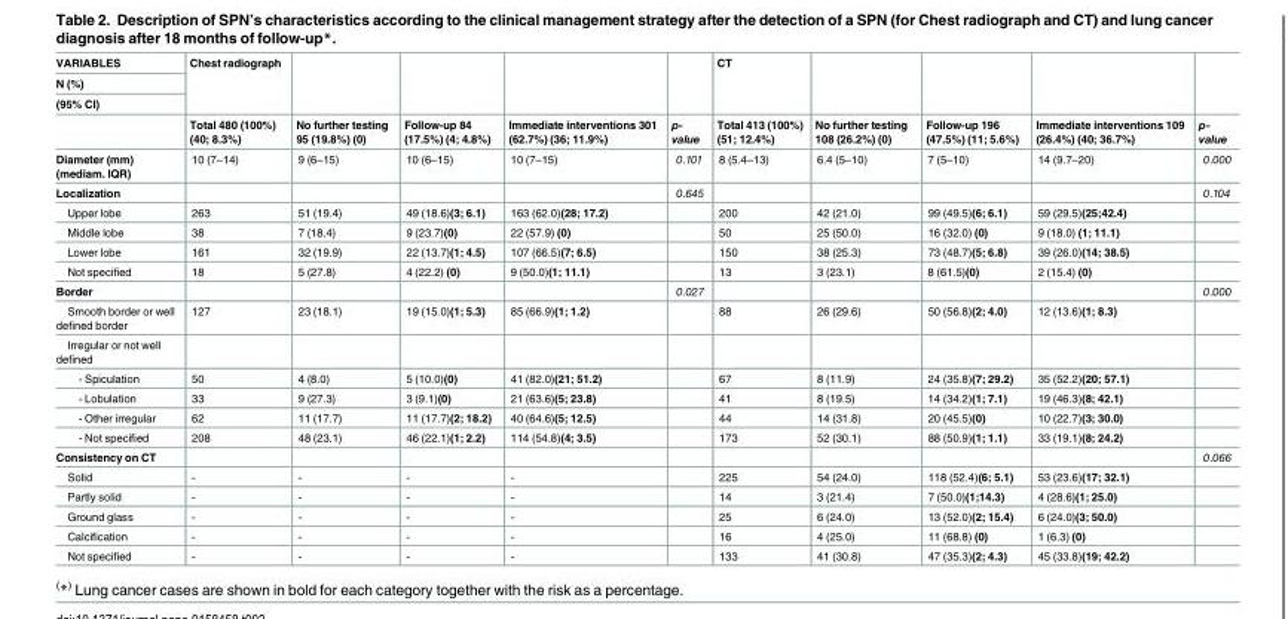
<table><thead><tr><td rowspan="4">VARIABLES N (%) (95% CI)</td><td rowspan="4">Chest radiograph Total 480 (100%) (40; 8.3%)</td><td rowspan="4">No further testing 95 (19.8%) (0)</td><td rowspan="4">Follow-up 84 (17.5%) (4; 4.8%)</td><td rowspan="4">Immediate interventions 301 (62.7%) (36; 11.9%)</td><td rowspan="4">p- value</td><td rowspan="4">CT Total 413 (100%) (51; 12.4%)</td><td rowspan="4">No further testing 108 (26.2%) (0)</td><td rowspan="4">Follow-up 196 (47.5%) (11; 5.6%)</td><td rowspan="4">Immediate interventions 109 (26.4%) (40; 36.7%)</td><td rowspan="4">p- value</td></tr><tr></tr><tr></tr><tr></tr></thead><tbody><tr><td>Diameter (mm) (mediam. IQR)</td><td>10 (7–14)</td><td>9 (6–15)</td><td>10 (6–15)</td><td>10 (7–15)</td><td>0.101</td><td>8 (5.4–13)</td><td>6.4 (5–10)</td><td>7 (5–10)</td><td>14 (9.7–20)</td><td>0.000</td></tr><tr><td>Localization</td><td></td><td></td><td></td><td></td><td>0.645</td><td></td><td></td><td></td><td></td><td>0.104</td></tr><tr><td>Upper lobe</td><td>263</td><td>51 (19.4)</td><td>49 (18.6)(3; 6.1)</td><td>163 (62.0)(28; 17.2)</td><td></td><td>200</td><td>42 (21.0)</td><td>99 (49.5)(6; 6.1)</td><td>59 (29.5)(25;42.4)</td><td></td></tr><tr><td>Middle lobe</td><td>38</td><td>7 (18.4)</td><td>9 (23.7)(0)</td><td>22 (57.9) (0)</td><td></td><td>50</td><td>25 (50.0)</td><td>16 (32.0) (0)</td><td>9 (18.0) (1; 11.1)</td><td></td></tr><tr><td>Lower lobe</td><td>161</td><td>32 (19.9)</td><td>22 (13.7)(1; 4.5)</td><td>107 (66.5)(7; 6.5)</td><td></td><td>150</td><td>38 (25.3)</td><td>73 (48.7)(5; 6.8)</td><td>39 (26.0)(14; 38.5)</td><td></td></tr><tr><td>Not specified</td><td>18</td><td>5 (27.8)</td><td>4 (22.2) (0)</td><td>9 (50.0)(1; 11.1)</td><td></td><td>13</td><td>3 (23.1)</td><td>8 (61.5)(0)</td><td>2 (15.4) (0)</td><td></td></tr><tr><td>Border</td><td></td><td></td><td></td><td></td><td>0.027</td><td></td><td></td><td></td><td></td><td>0.000</td></tr><tr><td>Smooth border or well defined border</td><td>127</td><td>23 (18.1)</td><td>19 (15.0)(1; 5.3)</td><td>85 (66.9)(1; 1.2)</td><td></td><td>88</td><td>26 (29.6)</td><td>50 (56.8)(2; 4.0)</td><td>12 (13.6)(1; 8.3)</td><td></td></tr><tr><td colspan="11">Irregular or not well defined</td></tr><tr><td>- Spiculation</td><td>50</td><td>4 (8.0)</td><td>5 (10.0)(0)</td><td>41 (82.0)(21; 51.2)</td><td></td><td>67</td><td>8 (11.9)</td><td>24 (35.8)(7; 29.2)</td><td>35 (52.2)(20; 57.1)</td><td></td></tr><tr><td>- Lobulation</td><td>33</td><td>9 (27.3)</td><td>3 (9.1)(0)</td><td>21 (63.6)(5; 23.8)</td><td></td><td>41</td><td>8 (19.5)</td><td>14 (34.2)(1; 7.1)</td><td>19 (46.3)(8; 42.1)</td><td></td></tr><tr><td>- Other irregular</td><td>62</td><td>11 (17.7)</td><td>11 (17.7)(2; 18.2)</td><td>40 (64.6)(5; 12.5)</td><td></td><td>44</td><td>14 (31.8)</td><td>20 (45.5)(0)</td><td>10 (22.7)(3; 30.0)</td><td></td></tr><tr><td>- Not specified</td><td>208</td><td>48 (23.1)</td><td>46 (22.1)(1; 2.2)</td><td>114 (54.8)(4; 3.5)</td><td></td><td>173</td><td>52 (30.1)</td><td>88 (50.9)(1; 1.1)</td><td>33 (19.1)(8; 24.2)</td><td></td></tr><tr><td>Consistency on CT</td><td></td><td></td><td></td><td></td><td></td><td></td><td></td><td></td><td></td><td>0.066</td></tr><tr><td>Solid</td><td>-</td><td>-</td><td>-</td><td>-</td><td></td><td>225</td><td>54 (24.0)</td><td>118 (52.4)(6; 5.1)</td><td>53 (23.6)(17; 32.1)</td><td></td></tr><tr><td>Partly solid</td><td>-</td><td>-</td><td>-</td><td>-</td><td></td><td>14</td><td>3 (21.4)</td><td>7 (50.0)(1;14.3)</td><td>4 (28.6)(1; 25.0)</td><td></td></tr><tr><td>Ground glass</td><td>-</td><td>-</td><td>-</td><td>-</td><td></td><td>25</td><td>6 (24.0)</td><td>13 (52.0)(2; 15.4)</td><td>6 (24.0)(3; 50.0)</td><td></td></tr><tr><td>Calcification</td><td>-</td><td>-</td><td>-</td><td>-</td><td></td><td>16</td><td>4 (25.0)</td><td>11 (68.8) (0)</td><td>1 (6.3) (0)</td><td></td></tr><tr><td>Not specified</td><td>-</td><td>-</td><td>-</td><td>-</td><td></td><td>133</td><td>41 (30.8)</td><td>47 (35.3)(2; 4.3)</td><td>45 (33.8)(19; 42.2)</td><td></td></tr></tbody></table>